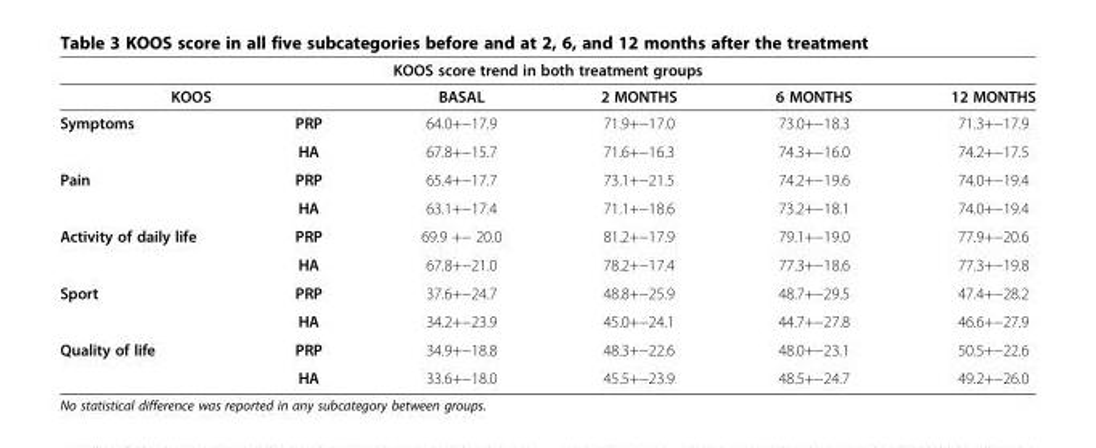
<table><thead><tr><td colspan="6">KOOS score trend in both treatment groups</td></tr><tr><td colspan="2">KOOS</td><td rowspan="2">BASAL 64.0+−17.9</td><td rowspan="2">2 MONTHS 71.9+−17.0</td><td rowspan="2">6 MONTHS 73.0+−18.3</td><td rowspan="2">12 MONTHS 71.3+−17.9</td></tr><tr><td>Symptoms</td><td>PRP</td></tr></thead><tbody><tr><td></td><td>HA</td><td>67.8+−15.7</td><td>71.6+−16.3</td><td>74.3+−16.0</td><td>74.2+−17.5</td></tr><tr><td rowspan="2">Pain</td><td>PRP</td><td>65.4+−17.7</td><td>73.1+−21.5</td><td>74.2+−19.6</td><td>74.0+−19.4</td></tr><tr><td>HA</td><td>63.1+−17.4</td><td>71.1+−18.6</td><td>73.2+−18.1</td><td>74.0+−19.4</td></tr><tr><td rowspan="2">Activity of daily life</td><td>PRP</td><td>69.9 +− 20.0</td><td>81.2+−17.9</td><td>79.1+−19.0</td><td>77.9+−20.6</td></tr><tr><td>HA</td><td>67.8+−21.0</td><td>78.2+−17.4</td><td>77.3+−18.6</td><td>77.3+−19.8</td></tr><tr><td rowspan="2">Sport</td><td>PRP</td><td>37.6+−24.7</td><td>48.8+−25.9</td><td>48.7+−29.5</td><td>47.4+−28.2</td></tr><tr><td>HA</td><td>34.2+−23.9</td><td>45.0+−24.1</td><td>44.7+−27.8</td><td>46.6+−27.9</td></tr><tr><td rowspan="2">Quality of life</td><td>PRP</td><td>34.9+−18.8</td><td>48.3+−22.6</td><td>48.0+−23.1</td><td>50.5+−22.6</td></tr><tr><td>HA</td><td>33.6+−18.0</td><td>45.5+−23.9</td><td>48.5+−24.7</td><td>49.2+−26.0</td></tr></tbody></table>